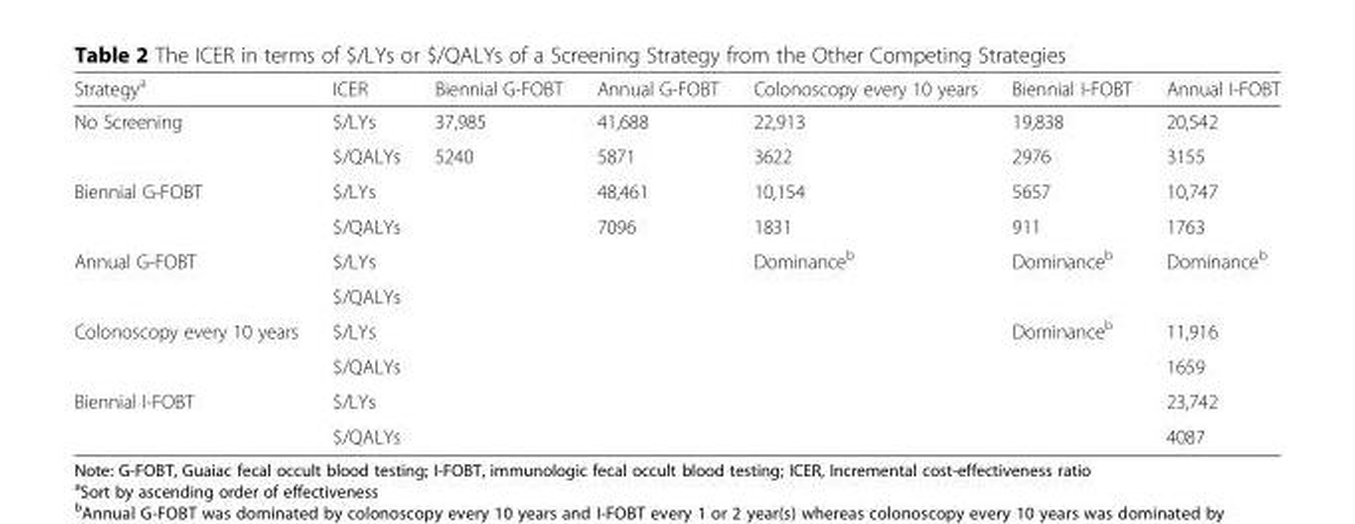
<table><thead><tr><td>Strategy<sup>a</sup></td><td>ICER</td><td>Biennial G-FOBT</td><td>Annual G-FOBT</td><td>Colonoscopy every 10 years</td><td>Biennial I-FOBT</td><td>Annual I-FOBT</td></tr></thead><tbody><tr><td rowspan="2">No Screening</td><td>$/LYs</td><td>37,985</td><td>41,688</td><td>22,913</td><td>19,838</td><td>20,542</td></tr><tr><td>$/QALYs</td><td>5240</td><td>5871</td><td>3622</td><td>2976</td><td>3155</td></tr><tr><td rowspan="2">Biennial G-FOBT</td><td>$/LYs</td><td></td><td>48,461</td><td>10,154</td><td>5657</td><td>10,747</td></tr><tr><td>$/QALYs</td><td></td><td>7096</td><td>1831</td><td>911</td><td>1763</td></tr><tr><td rowspan="2">Annual G-FOBT</td><td>$/LYs</td><td></td><td></td><td rowspan="2">Dominance<sup>b</sup></td><td rowspan="2">Dominance<sup>b</sup></td><td rowspan="2">Dominance<sup>b</sup></td></tr><tr><td>$/QALYs</td><td></td><td></td></tr><tr><td rowspan="2">Colonoscopy every 10 years</td><td>$/LYs</td><td></td><td></td><td></td><td rowspan="2">Dominance<sup>b</sup></td><td>11,916</td></tr><tr><td>$/QALYs</td><td></td><td></td><td></td><td>1659</td></tr><tr><td rowspan="2">Biennial I-FOBT</td><td>$/LYs</td><td></td><td></td><td></td><td></td><td>23,742</td></tr><tr><td>$/QALYs</td><td></td><td></td><td></td><td></td><td>4087</td></tr></tbody></table>